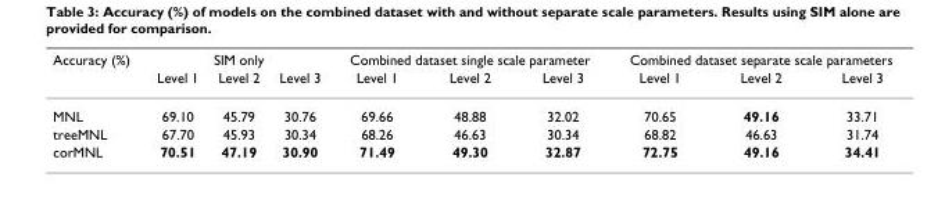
<table><thead><tr><td rowspan="2">Accuracy (%)</td><td colspan="3">SIM only</td><td colspan="3">Combined dataset single scale parameter</td><td colspan="3">Combined dataset separate scale parameters</td></tr><tr><td>Level 1</td><td>Level 2</td><td>Level 3</td><td>Level 1</td><td>Level 2</td><td>Level 3</td><td>Level 1</td><td>Level 2</td><td>Level 3</td></tr></thead><tbody><tr><td>MNL</td><td>69.10</td><td>45.79</td><td>30.76</td><td>69.66</td><td>48.88</td><td>32.02</td><td>70.65</td><td>49.16</td><td>33.71</td></tr><tr><td>treeMNL</td><td>67.70</td><td>45.93</td><td>30.34</td><td>68.26</td><td>46.63</td><td>30.34</td><td>68.82</td><td>46.63</td><td>31.74</td></tr><tr><td>corMNL</td><td>70.51</td><td>47.19</td><td>30.90</td><td>71.49</td><td>49.30</td><td>32.87</td><td>72.75</td><td>49.16</td><td>34.41</td></tr></tbody></table>